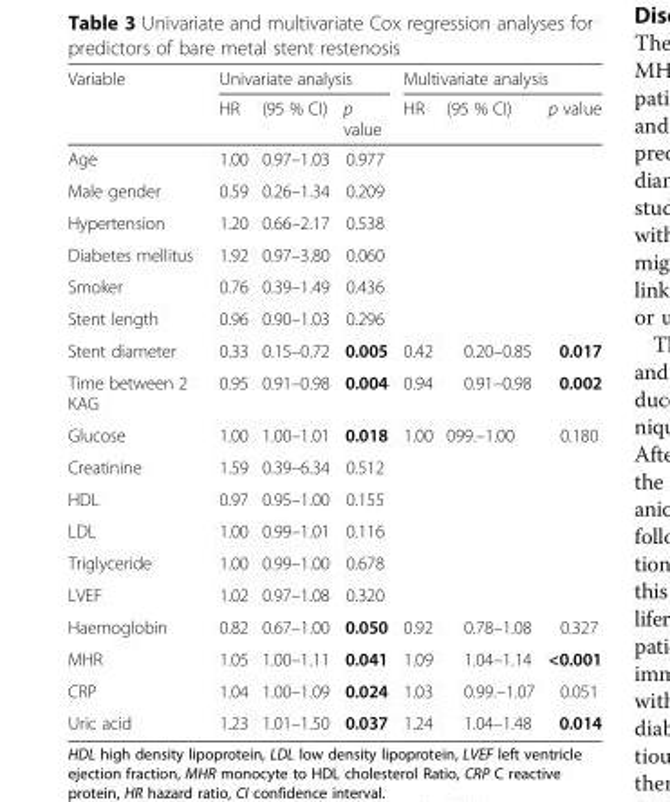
<table><thead><tr><td rowspan="2">Variable</td><td colspan="3">Univariate analysis</td><td colspan="3">Multivariate analysis</td></tr><tr><td>HR</td><td>(95 % CI)</td><td>p value</td><td>HR</td><td>(95 % CI)</td><td>p value</td></tr></thead><tbody><tr><td>Age</td><td>1.00</td><td>0.97–1.03</td><td>0.977</td><td></td><td></td><td></td></tr><tr><td>Male gender</td><td>0.59</td><td>0.26–1.34</td><td>0.209</td><td></td><td></td><td></td></tr><tr><td>Hypertension</td><td>1.20</td><td>0.66–2.17</td><td>0.538</td><td></td><td></td><td></td></tr><tr><td>Diabetes mellitus</td><td>1.92</td><td>0.97–3.80</td><td>0.060</td><td></td><td></td><td></td></tr><tr><td>Smoker</td><td>0.76</td><td>0.39–1.49</td><td>0.436</td><td></td><td></td><td></td></tr><tr><td>Stent length</td><td>0.96</td><td>0.90–1.03</td><td>0.296</td><td></td><td></td><td></td></tr><tr><td>Stent diameter</td><td>0.33</td><td>0.15–0.72</td><td>0.005</td><td>0.42</td><td>0.20–0.85</td><td>0.017</td></tr><tr><td>Time between 2 KAG</td><td>0.95</td><td>0.91–0.98</td><td>0.004</td><td>0.94</td><td>0.91–0.98</td><td>0.002</td></tr><tr><td>Glucose</td><td>1.00</td><td>1.00–1.01</td><td>0.018</td><td>1.00</td><td>099.–1.00</td><td>0.180</td></tr><tr><td>Creatinine</td><td>1.59</td><td>0.39–6.34</td><td>0.512</td><td></td><td></td><td></td></tr><tr><td>HDL</td><td>0.97</td><td>0.95–1.00</td><td>0.155</td><td></td><td></td><td></td></tr><tr><td>LDL</td><td>1.00</td><td>0.99–1.01</td><td>0.116</td><td></td><td></td><td></td></tr><tr><td>Triglyceride</td><td>1.00</td><td>0.99–1.00</td><td>0.678</td><td></td><td></td><td></td></tr><tr><td>LVEF</td><td>1.02</td><td>0.97–1.08</td><td>0.320</td><td></td><td></td><td></td></tr><tr><td>Haemoglobin</td><td>0.82</td><td>0.67–1.00</td><td>0.050</td><td>0.92</td><td>0.78–1.08</td><td>0.327</td></tr><tr><td>MHR</td><td>1.05</td><td>1.00–1.11</td><td>0.041</td><td>1.09</td><td>1.04–1.14</td><td>&lt;0.001</td></tr><tr><td>CRP</td><td>1.04</td><td>1.00–1.09</td><td>0.024</td><td>1.03</td><td>0.99.–1.07</td><td>0.051</td></tr><tr><td>Uric acid</td><td>1.23</td><td>1.01–1.50</td><td>0.037</td><td>1.24</td><td>1.04–1.48</td><td>0.014</td></tr></tbody></table>